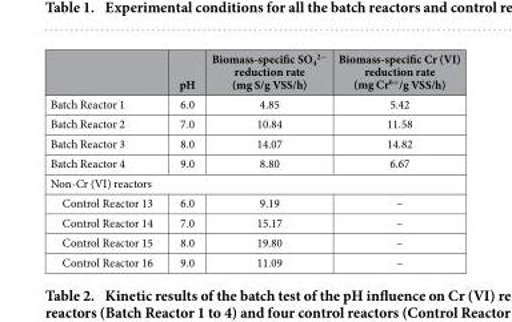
<table><thead><tr><td></td><td>pH</td><td>Biomass-specific SO<sub>4</sub> <sup>2−</sup> reduction rate (mg S/g VSS/h)</td><td>Biomass-specific Cr (VI) reduction rate (mg Cr<sup>6+</sup>/g VSS/h)</td></tr></thead><tbody><tr><td>Batch Reactor 1</td><td>6.0</td><td>4.85</td><td>5.42</td></tr><tr><td>Batch Reactor 2</td><td>7.0</td><td>10.84</td><td>11.58</td></tr><tr><td>Batch Reactor 3</td><td>8.0</td><td>14.07</td><td>14.82</td></tr><tr><td>Batch Reactor 4</td><td>9.0</td><td>8.80</td><td>6.67</td></tr><tr><td colspan="4">Non-Cr (VI) reactors</td></tr><tr><td>Control Reactor 13</td><td>6.0</td><td>9.19</td><td>–</td></tr><tr><td>Control Reactor 14</td><td>7.0</td><td>15.17</td><td>–</td></tr><tr><td>Control Reactor 15</td><td>8.0</td><td>19.80</td><td>–</td></tr><tr><td>Control Reactor 16</td><td>9.0</td><td>11.09</td><td>–</td></tr></tbody></table>